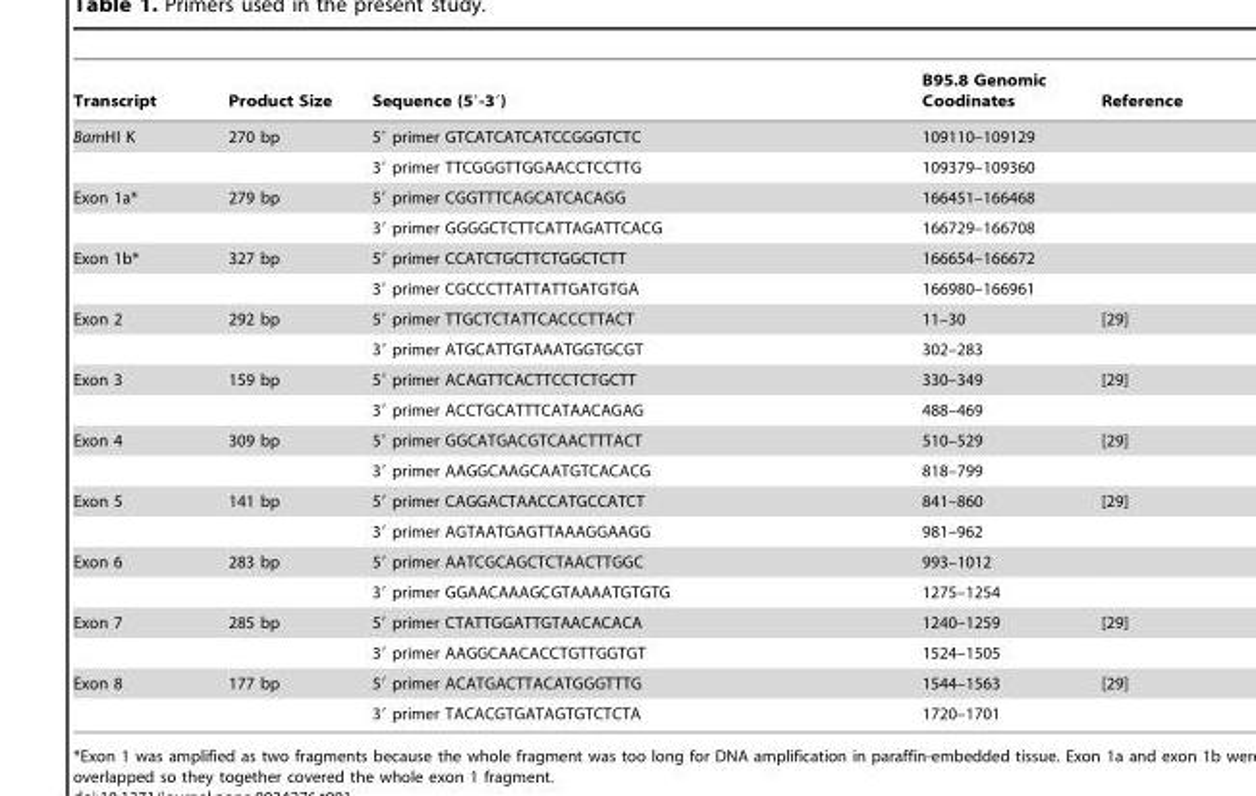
<table><thead><tr><td>Transcript</td><td>Product Size</td><td>Sequence (5′-3′)</td><td>B95.8 Genomic Coodinates</td><td>Reference</td></tr></thead><tbody><tr><td rowspan="2">BamHI K</td><td>270 bp</td><td>5′ primer GTCATCATCATCCGGGTCTC</td><td>109110–109129</td><td></td></tr><tr><td></td><td>3′ primer TTCGGGTTGGAACCTCCTTG</td><td>109379–109360</td><td></td></tr><tr><td rowspan="2">Exon 1a*</td><td>279 bp</td><td>5′ primer CGGTTTCAGCATCACAGG</td><td>166451–166468</td><td></td></tr><tr><td></td><td>3′ primer GGGGCTCTTCATTAGATTCACG</td><td>166729–166708</td><td></td></tr><tr><td rowspan="2">Exon 1b*</td><td>327 bp</td><td>5′ primer CCATCTGCTTCTGGCTCTT</td><td>166654–166672</td><td></td></tr><tr><td></td><td>3′ primer CGCCCTTATTATTGATGTGA</td><td>166980–166961</td><td></td></tr><tr><td rowspan="2">Exon 2</td><td>292 bp</td><td>5′ primer TTGCTCTATTCACCCTTACT</td><td>11–30</td><td>[29]</td></tr><tr><td></td><td>3′ primer ATGCATTGTAAATGGTGCGT</td><td>302–283</td><td></td></tr><tr><td rowspan="2">Exon 3</td><td>159 bp</td><td>5′ primer ACAGTTCACTTCCTCTGCTT</td><td>330–349</td><td>[29]</td></tr><tr><td></td><td>3′ primer ACCTGCATTTCATAACAGAG</td><td>488–469</td><td></td></tr><tr><td rowspan="2">Exon 4</td><td>309 bp</td><td>5′ primer GGCATGACGTCAACTTTACT</td><td>510–529</td><td>[29]</td></tr><tr><td></td><td>3′ primer AAGGCAAGCAATGTCACACG</td><td>818–799</td><td></td></tr><tr><td rowspan="2">Exon 5</td><td>141 bp</td><td>5′ primer CAGGACTAACCATGCCATCT</td><td>841–860</td><td>[29]</td></tr><tr><td></td><td>3′ primer AGTAATGAGTTAAAGGAAGG</td><td>981–962</td><td></td></tr><tr><td rowspan="2">Exon 6</td><td>283 bp</td><td>5′ primer AATCGCAGCTCTAACTTGGC</td><td>993–1012</td><td></td></tr><tr><td></td><td>3′ primer GGAACAAAGCGTAAAATGTGTG</td><td>1275–1254</td><td></td></tr><tr><td rowspan="2">Exon 7</td><td>285 bp</td><td>5′ primer CTATTGGATTGTAACACACA</td><td>1240–1259</td><td>[29]</td></tr><tr><td></td><td>3′ primer AAGGCAACACCTGTTGGTGT</td><td>1524–1505</td><td></td></tr><tr><td rowspan="2">Exon 8</td><td>177 bp</td><td>5′ primer ACATGACTTACATGGGTTTG</td><td>1544–1563</td><td>[29]</td></tr><tr><td></td><td>3′ primer TACACGTGATAGTGTCTCTA</td><td>1720–1701</td><td></td></tr></tbody></table>